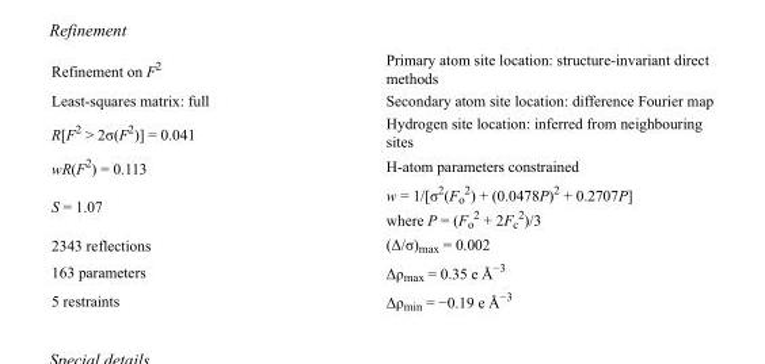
<table><tbody><tr><td>Refinement on F<sup>2</sup></td><td>Primary atom site location: structure-invariant direct methods</td></tr><tr><td>Least-squares matrix: full</td><td>Secondary atom site location: difference Fourier map</td></tr><tr><td>R[F<sup>2</sup> &gt; 2σ(F<sup>2</sup>)] = 0.041</td><td>Hydrogen site location: inferred from neighbouring sites</td></tr><tr><td>wR(F<sup>2</sup>) = 0.113</td><td>H-atom parameters constrained</td></tr><tr><td>S = 1.07</td><td>w = 1/[σ<sup>2</sup>(F<sub>o</sub> <sup>2</sup>) + (0.0478P)<sup>2</sup> + 0.2707P] where P = (F<sub>o</sub> <sup>2</sup> + 2F<sub>c</sub> <sup>2</sup>)/3</td></tr><tr><td>2343 reflections</td><td>(Δ/σ)<sub>max</sub> = 0.002</td></tr><tr><td>163 parameters</td><td>Δρ<sub>max</sub> = 0.35 e Å<sup>−3</sup></td></tr><tr><td>5 restraints</td><td>Δρ<sub>min</sub> = −0.19 e Å<sup>−3</sup></td></tr></tbody></table>